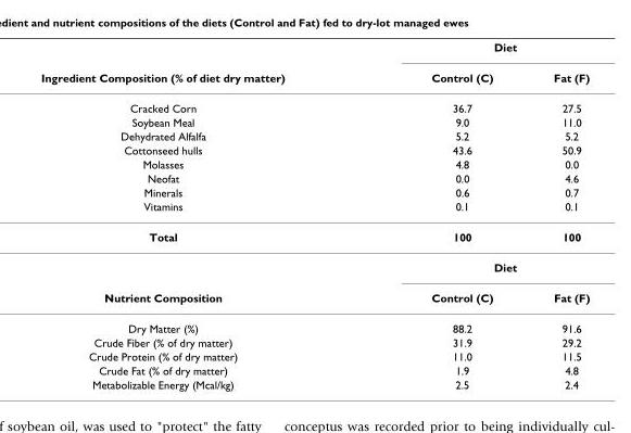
<table><thead><tr><td rowspan="2">Ingredient Composition (% of diet dry matter)</td><td colspan="2">Diet</td></tr><tr><td>Control (C)</td><td>Fat (F)</td></tr></thead><tbody><tr><td>Cracked Corn</td><td>36.7</td><td>27.5</td></tr><tr><td>Soybean Meal</td><td>9.0</td><td>11.0</td></tr><tr><td>Dehydrated Alfalfa</td><td>5.2</td><td>5.2</td></tr><tr><td>Cottonseed hulls</td><td>43.6</td><td>50.9</td></tr><tr><td>Molasses</td><td>4.8</td><td>0.0</td></tr><tr><td>Neofat</td><td>0.0</td><td>4.6</td></tr><tr><td>Minerals</td><td>0.6</td><td>0.7</td></tr><tr><td>Vitamins</td><td>0.1</td><td>0.1</td></tr><tr><td rowspan="2">Total</td><td>100</td><td>100</td></tr><tr><td colspan="2">Diet</td></tr><tr><td>Nutrient Composition</td><td>Control (C)</td><td>Fat (F)</td></tr><tr><td>Dry Matter (%)</td><td>88.2</td><td>91.6</td></tr><tr><td>Crude Fiber (% of dry matter)</td><td>31.9</td><td>29.2</td></tr><tr><td>Crude Protein (% of dry matter)</td><td>11.0</td><td>11.5</td></tr><tr><td>Crude Fat (% of dry matter)</td><td>1.9</td><td>4.8</td></tr><tr><td>Metabolizable Energy (Mcal/kg)</td><td>2.5</td><td>2.4</td></tr></tbody></table>